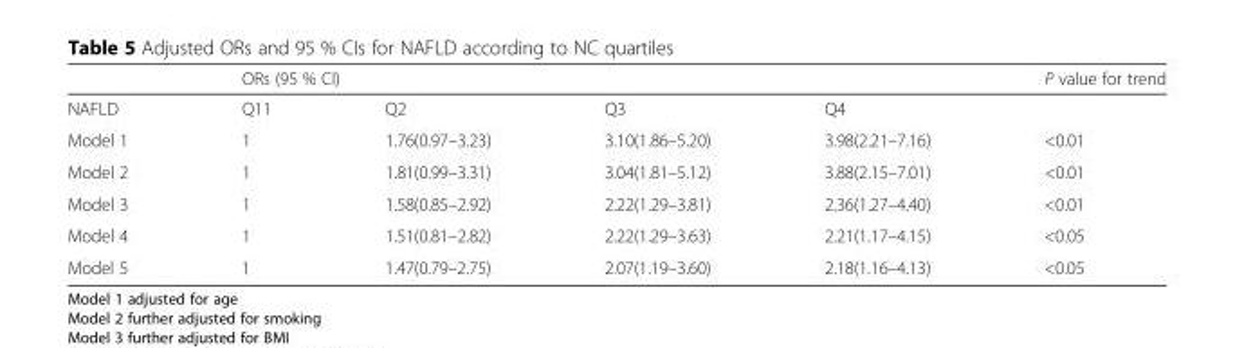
<table><thead><tr><td rowspan="2">NAFLD</td><td colspan="4">ORs (95 % CI)</td><td rowspan="2">P value for trend</td></tr><tr><td>Q11</td><td>Q2</td><td>Q3</td><td>Q4</td></tr></thead><tbody><tr><td>Model 1</td><td>1</td><td>1.76(0.97–3.23)</td><td>3.10(1.86–5.20)</td><td>3.98(2.21–7.16)</td><td>&lt;0.01</td></tr><tr><td>Model 2</td><td>1</td><td>1.81(0.99–3.31)</td><td>3.04(1.81–5.12)</td><td>3.88(2.15–7.01)</td><td>&lt;0.01</td></tr><tr><td>Model 3</td><td>1</td><td>1.58(0.85–2.92)</td><td>2.22(1.29–3.81)</td><td>2.36(1.27–4.40)</td><td>&lt;0.01</td></tr><tr><td>Model 4</td><td>1</td><td>1.51(0.81–2.82)</td><td>2.22(1.29–3.63)</td><td>2.21(1.17–4.15)</td><td>&lt;0.05</td></tr><tr><td>Model 5</td><td>1</td><td>1.47(0.79–2.75)</td><td>2.07(1.19–3.60)</td><td>2.18(1.16–4.13)</td><td>&lt;0.05</td></tr></tbody></table>